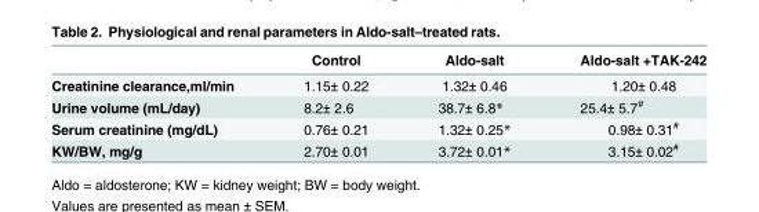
<table><thead><tr><td></td><td>Control</td><td>Aldo-salt</td><td>Aldo-salt +TAK-242</td></tr></thead><tbody><tr><td>Creatinine clearance,ml/min</td><td>1.15± 0.22</td><td>1.32± 0.46</td><td>1.20± 0.48</td></tr><tr><td>Urine volume (mL/day)</td><td>8.2± 2.6</td><td>38.7± 6.8*</td><td>25.4± 5.7<sup>#</sup></td></tr><tr><td>Serum creatinine (mg/dL)</td><td>0.76± 0.21</td><td>1.32± 0.25*</td><td>0.98± 0.31<sup>#</sup></td></tr><tr><td>KW/BW, mg/g</td><td>2.70± 0.01</td><td>3.72± 0.01*</td><td>3.15± 0.02<sup>#</sup></td></tr></tbody></table>